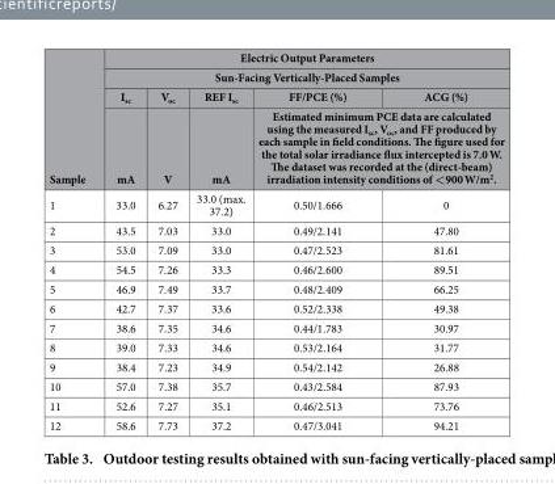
<table><thead><tr><td rowspan="4">Sample</td><td rowspan="2" colspan="5">Electric Output Parameters Sun-Facing Vertically-Placed Samples</td></tr><tr></tr><tr><td rowspan="2">I<sub>sc</sub> mA</td><td rowspan="2">V<sub>oc</sub> V</td><td rowspan="2">REF I<sub>sc</sub> mA</td><td>FF/PCE (%)</td><td>ACG (%)</td></tr><tr><td colspan="2">Estimated minimum PCE data are calculated using the measured I<sub>sc</sub>, V<sub>oc</sub>, and FF produced by each sample in field conditions. The figure used for the total solar irradiance flux intercepted is 7.0 W. The dataset was recorded at the (direct-beam) irradiation intensity conditions of &lt;900 W/m<sup>2</sup>.</td></tr></thead><tbody><tr><td>1</td><td>33.0</td><td>6.27</td><td>33.0 (max. 37.2)</td><td>0.50/1.666</td><td>0</td></tr><tr><td>2</td><td>43.5</td><td>7.03</td><td>33.0</td><td>0.49/2.141</td><td>47.80</td></tr><tr><td>3</td><td>53.0</td><td>7.09</td><td>33.0</td><td>0.47/2.523</td><td>81.61</td></tr><tr><td>4</td><td>54.5</td><td>7.26</td><td>33.3</td><td>0.46/2.600</td><td>89.51</td></tr><tr><td>5</td><td>46.9</td><td>7.49</td><td>33.7</td><td>0.48/2.409</td><td>66.25</td></tr><tr><td>6</td><td>42.7</td><td>7.37</td><td>33.6</td><td>0.52/2.338</td><td>49.38</td></tr><tr><td>7</td><td>38.6</td><td>7.35</td><td>34.6</td><td>0.44/1.783</td><td>30.97</td></tr><tr><td>8</td><td>39.0</td><td>7.33</td><td>34.6</td><td>0.53/2.164</td><td>31.77</td></tr><tr><td>9</td><td>38.4</td><td>7.23</td><td>34.9</td><td>0.54/2.142</td><td>26.88</td></tr><tr><td>10</td><td>57.0</td><td>7.38</td><td>35.7</td><td>0.43/2.584</td><td>87.93</td></tr><tr><td>11</td><td>52.6</td><td>7.27</td><td>35.1</td><td>0.46/2.513</td><td>73.76</td></tr><tr><td>12</td><td>58.6</td><td>7.73</td><td>37.2</td><td>0.47/3.041</td><td>94.21</td></tr></tbody></table>